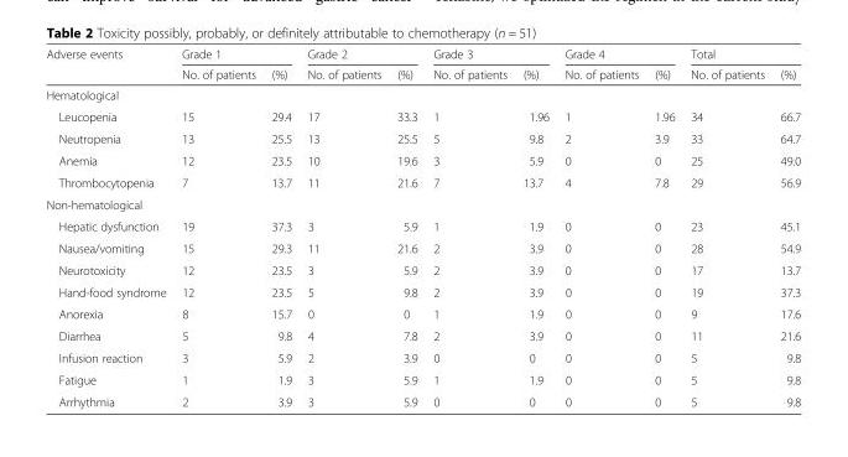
<table><thead><tr><td rowspan="2">Adverse events</td><td colspan="2">Grade 1</td><td colspan="2">Grade 2</td><td colspan="2">Grade 3</td><td colspan="2">Grade 4</td><td colspan="2">Total</td></tr><tr><td>No. of patients</td><td>(%)</td><td>No. of patients</td><td>(%)</td><td>No. of patients</td><td>(%)</td><td>No. of patients</td><td>(%)</td><td>No. of patients</td><td>(%)</td></tr></thead><tbody><tr><td colspan="11">Hematological</td></tr><tr><td>Leucopenia</td><td>15</td><td>29.4</td><td>17</td><td>33.3</td><td>1</td><td>1.96</td><td>1</td><td>1.96</td><td>34</td><td>66.7</td></tr><tr><td>Neutropenia</td><td>13</td><td>25.5</td><td>13</td><td>25.5</td><td>5</td><td>9.8</td><td>2</td><td>3.9</td><td>33</td><td>64.7</td></tr><tr><td>Anemia</td><td>12</td><td>23.5</td><td>10</td><td>19.6</td><td>3</td><td>5.9</td><td>0</td><td>0</td><td>25</td><td>49.0</td></tr><tr><td>Thrombocytopenia</td><td>7</td><td>13.7</td><td>11</td><td>21.6</td><td>7</td><td>13.7</td><td>4</td><td>7.8</td><td>29</td><td>56.9</td></tr><tr><td colspan="11">Non-hematological</td></tr><tr><td>Hepatic dysfunction</td><td>19</td><td>37.3</td><td>3</td><td>5.9</td><td>1</td><td>1.9</td><td>0</td><td>0</td><td>23</td><td>45.1</td></tr><tr><td>Nausea/vomiting</td><td>15</td><td>29.3</td><td>11</td><td>21.6</td><td>2</td><td>3.9</td><td>0</td><td>0</td><td>28</td><td>54.9</td></tr><tr><td>Neurotoxicity</td><td>12</td><td>23.5</td><td>3</td><td>5.9</td><td>2</td><td>3.9</td><td>0</td><td>0</td><td>17</td><td>13.7</td></tr><tr><td>Hand-food syndrome</td><td>12</td><td>23.5</td><td>5</td><td>9.8</td><td>2</td><td>3.9</td><td>0</td><td>0</td><td>19</td><td>37.3</td></tr><tr><td>Anorexia</td><td>8</td><td>15.7</td><td>0</td><td>0</td><td>1</td><td>1.9</td><td>0</td><td>0</td><td>9</td><td>17.6</td></tr><tr><td>Diarrhea</td><td>5</td><td>9.8</td><td>4</td><td>7.8</td><td>2</td><td>3.9</td><td>0</td><td>0</td><td>11</td><td>21.6</td></tr><tr><td>Infusion reaction</td><td>3</td><td>5.9</td><td>2</td><td>3.9</td><td>0</td><td>0</td><td>0</td><td>0</td><td>5</td><td>9.8</td></tr><tr><td>Fatigue</td><td>1</td><td>1.9</td><td>3</td><td>5.9</td><td>1</td><td>1.9</td><td>0</td><td>0</td><td>5</td><td>9.8</td></tr><tr><td>Arrhythmia</td><td>2</td><td>3.9</td><td>3</td><td>5.9</td><td>0</td><td>0</td><td>0</td><td>0</td><td>5</td><td>9.8</td></tr></tbody></table>